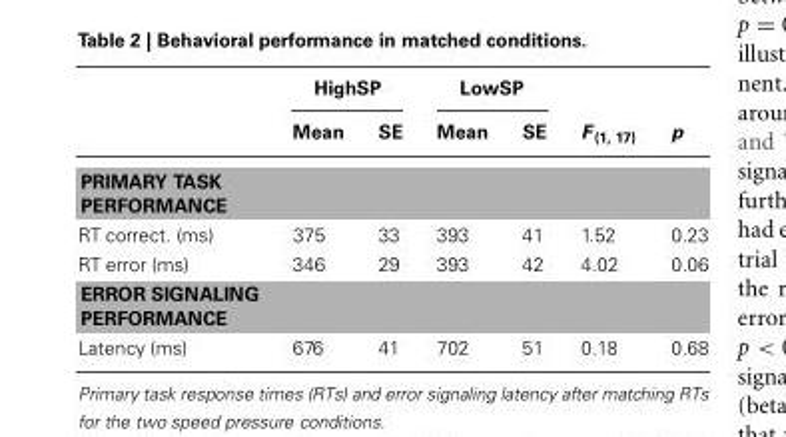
<table><thead><tr><td rowspan="2"></td><td colspan="2">HighSP</td><td colspan="2">LowSP</td><td rowspan="2">F <sub>(1, 17)</sub></td><td rowspan="2">p</td></tr><tr><td>Mean</td><td>SE</td><td>Mean</td><td>SE</td></tr></thead><tbody><tr><td colspan="7">PRIMARY TASK PERFORMANCE</td></tr><tr><td>RT correct. (ms)</td><td>375</td><td>33</td><td>393</td><td>41</td><td>1.52</td><td>0.23</td></tr><tr><td>RT error (ms)</td><td>346</td><td>29</td><td>393</td><td>42</td><td>4.02</td><td>0.06</td></tr><tr><td colspan="7">ERROR SIGNALING PERFORMANCE</td></tr><tr><td>Latency (ms)</td><td>676</td><td>41</td><td>702</td><td>51</td><td>0.18</td><td>0.68</td></tr></tbody></table>